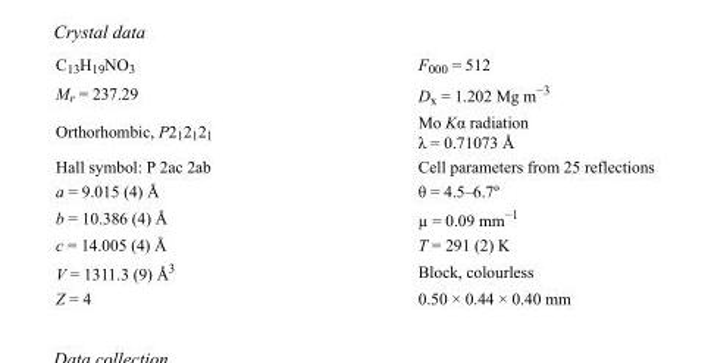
<table><tbody><tr><td>C<sub>13</sub>H<sub>19</sub>NO<sub>3</sub></td><td>F<sub>000</sub> = 512</td></tr><tr><td>M<sub>r</sub> = 237.29</td><td>D<sub>x</sub> = 1.202 Mg m<sup>−3</sup></td></tr><tr><td>Orthorhombic, P2<sub>1</sub>2<sub>1</sub>2<sub>1</sub></td><td>Mo Kα radiation λ = 0.71073 Å</td></tr><tr><td>Hall symbol: P 2ac 2ab</td><td>Cell parameters from 25 reflections</td></tr><tr><td>a = 9.015 (4) Å</td><td>θ = 4.5–6.7º</td></tr><tr><td>b = 10.386 (4) Å</td><td>µ = 0.09 mm<sup>−1</sup></td></tr><tr><td>c = 14.005 (4) Å</td><td>T = 291 (2) K</td></tr><tr><td>V = 1311.3 (9) Å<sup>3</sup></td><td>Block, colourless</td></tr><tr><td>Z = 4</td><td>0.50 × 0.44 × 0.40 mm</td></tr></tbody></table>